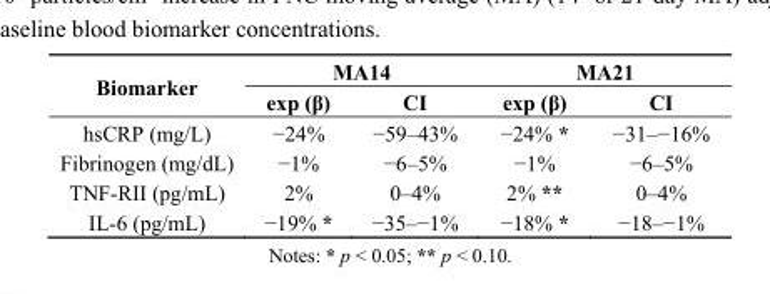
<table><thead><tr><td rowspan="2">Biomarker</td><td colspan="2">MA14</td><td colspan="2">MA21</td></tr><tr><td>exp (β)</td><td>CI</td><td>exp (β)</td><td>CI</td></tr></thead><tbody><tr><td>hsCRP (mg/L)</td><td>−24%</td><td>−59–43%</td><td>−24% *</td><td>−31–−16%</td></tr><tr><td>Fibrinogen (mg/dL)</td><td>−1%</td><td>−6–5%</td><td>−1%</td><td>−6–5%</td></tr><tr><td>TNF-RII (pg/mL)</td><td>2%</td><td>0–4%</td><td>2% **</td><td>0–4%</td></tr><tr><td>IL-6 (pg/mL)</td><td>−19% *</td><td>−35–−1%</td><td>−18% *</td><td>−18–−1%</td></tr></tbody></table>